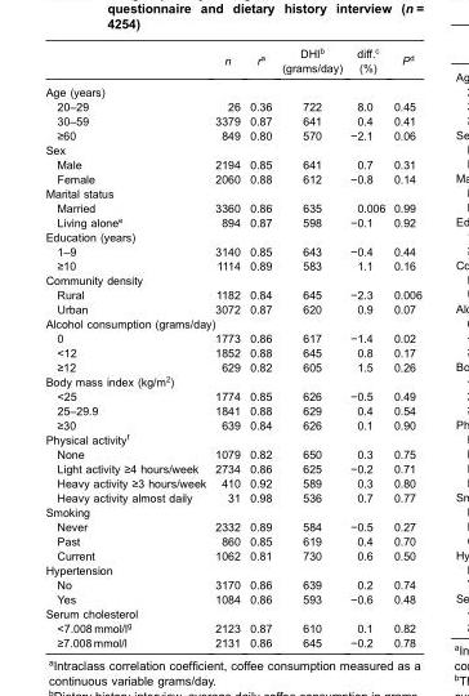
<table><thead><tr><td></td><td>n</td><td>r<sup>a</sup></td><td>DHI<sup>b</sup> (grams/day)</td><td>diff.<sup>c</sup> (%)</td><td>P<sup>d</sup></td></tr></thead><tbody><tr><td colspan="6">Age (years)</td></tr><tr><td>20–29</td><td>26</td><td>0.36</td><td>722</td><td>8.0</td><td>0.45</td></tr><tr><td>30–59</td><td>3379</td><td>0.87</td><td>641</td><td>0.4</td><td>0.41</td></tr><tr><td>≥60</td><td>849</td><td>0.80</td><td>570</td><td>−2.1</td><td>0.06</td></tr><tr><td colspan="6">Sex</td></tr><tr><td>Male</td><td>2194</td><td>0.85</td><td>641</td><td>0.7</td><td>0.31</td></tr><tr><td>Female</td><td>2060</td><td>0.88</td><td>612</td><td>−0.8</td><td>0.14</td></tr><tr><td colspan="6">Marital status</td></tr><tr><td>Married</td><td>3360</td><td>0.86</td><td>635</td><td>0.006</td><td>0.99</td></tr><tr><td>Living alone<sup>e</sup></td><td>894</td><td>0.87</td><td>598</td><td>−0.1</td><td>0.92</td></tr><tr><td colspan="6">Education (years)</td></tr><tr><td>1–9</td><td>3140</td><td>0.85</td><td>643</td><td>−0.4</td><td>0.44</td></tr><tr><td>≥10</td><td>1114</td><td>0.89</td><td>583</td><td>1.1</td><td>0.16</td></tr><tr><td colspan="6">Community density</td></tr><tr><td>Rural</td><td>1182</td><td>0.84</td><td>645</td><td>−2.3</td><td>0.006</td></tr><tr><td>Urban</td><td>3072</td><td>0.87</td><td>620</td><td>0.9</td><td>0.07</td></tr><tr><td colspan="6">Alcohol consumption (grams/day)</td></tr><tr><td>0</td><td>1773</td><td>0.86</td><td>617</td><td>−1.4</td><td>0.02</td></tr><tr><td>&lt;12</td><td>1852</td><td>0.88</td><td>645</td><td>0.8</td><td>0.17</td></tr><tr><td>≥12</td><td>629</td><td>0.82</td><td>605</td><td>1.5</td><td>0.26</td></tr><tr><td colspan="6">Body mass index (kg/m<sup>2</sup>)</td></tr><tr><td>&lt;25</td><td>1774</td><td>0.85</td><td>626</td><td>−0.5</td><td>0.49</td></tr><tr><td>25–29.9</td><td>1841</td><td>0.88</td><td>629</td><td>0.4</td><td>0.54</td></tr><tr><td>≥30</td><td>639</td><td>0.84</td><td>626</td><td>0.1</td><td>0.90</td></tr><tr><td colspan="6">Physical activity<sup>f</sup></td></tr><tr><td>None</td><td>1079</td><td>0.82</td><td>650</td><td>0.3</td><td>0.75</td></tr><tr><td>Light activity ≥4 hours/week</td><td>2734</td><td>0.86</td><td>625</td><td>−0.2</td><td>0.71</td></tr><tr><td>Heavy activity ≥3 hours/week</td><td>410</td><td>0.92</td><td>589</td><td>0.3</td><td>0.80</td></tr><tr><td>Heavy activity almost daily</td><td>31</td><td>0.98</td><td>536</td><td>0.7</td><td>0.77</td></tr><tr><td colspan="6">Smoking</td></tr><tr><td>Never</td><td>2332</td><td>0.89</td><td>584</td><td>−0.5</td><td>0.27</td></tr><tr><td>Past</td><td>860</td><td>0.85</td><td>619</td><td>0.4</td><td>0.70</td></tr><tr><td>Current</td><td>1062</td><td>0.81</td><td>730</td><td>0.6</td><td>0.50</td></tr><tr><td colspan="6">Hypertension</td></tr><tr><td>No</td><td>3170</td><td>0.86</td><td>639</td><td>0.2</td><td>0.74</td></tr><tr><td>Yes</td><td>1084</td><td>0.86</td><td>593</td><td>−0.6</td><td>0.48</td></tr><tr><td colspan="6">Serum cholesterol</td></tr><tr><td>&lt;7.008 mmol/l<sup>g</sup></td><td>2123</td><td>0.87</td><td>610</td><td>0.1</td><td>0.82</td></tr><tr><td>≥7.008 mmol/l</td><td>2131</td><td>0.86</td><td>645</td><td>−0.2</td><td>0.78</td></tr></tbody></table>